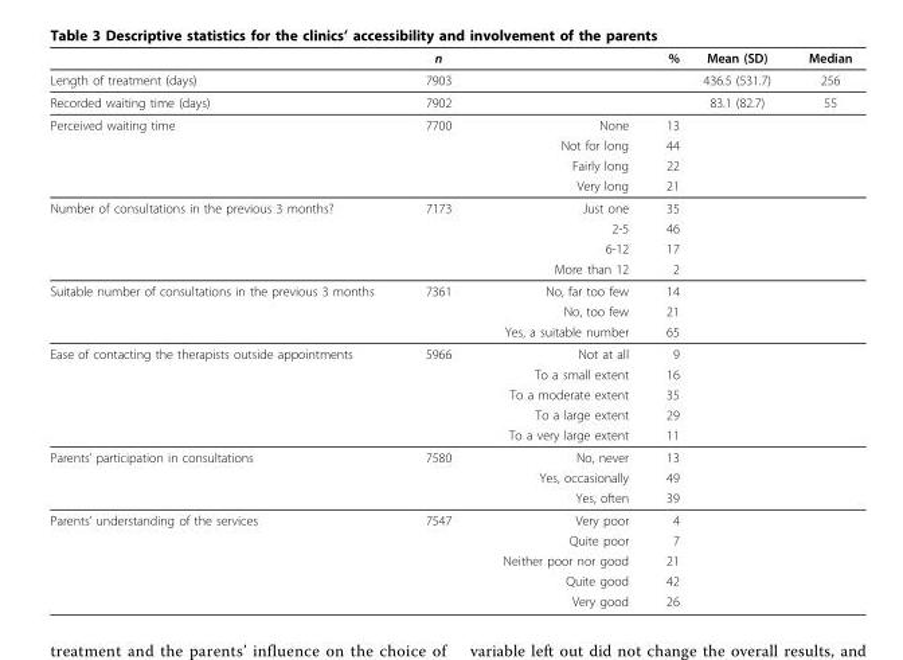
<table><thead><tr><td></td><td>n</td><td></td><td>%</td><td>Mean (SD)</td><td>Median</td></tr></thead><tbody><tr><td>Length of treatment (days)</td><td>7903</td><td></td><td></td><td>436.5 (531.7)</td><td>256</td></tr><tr><td>Recorded waiting time (days)</td><td>7902</td><td></td><td></td><td>83.1 (82.7)</td><td>55</td></tr><tr><td rowspan="4">Perceived waiting time</td><td>7700</td><td>None</td><td>13</td><td></td><td></td></tr><tr><td></td><td>Not for long</td><td>44</td><td></td><td></td></tr><tr><td></td><td>Fairly long</td><td>22</td><td></td><td></td></tr><tr><td></td><td>Very long</td><td>21</td><td></td><td></td></tr><tr><td rowspan="4">Number of consultations in the previous 3 months?</td><td>7173</td><td>Just one</td><td>35</td><td></td><td></td></tr><tr><td></td><td>2-5</td><td>46</td><td></td><td></td></tr><tr><td></td><td>6-12</td><td>17</td><td></td><td></td></tr><tr><td></td><td>More than 12</td><td>2</td><td></td><td></td></tr><tr><td rowspan="3">Suitable number of consultations in the previous 3 months</td><td>7361</td><td>No, far too few</td><td>14</td><td></td><td></td></tr><tr><td></td><td>No, too few</td><td>21</td><td></td><td></td></tr><tr><td></td><td>Yes, a suitable number</td><td>65</td><td></td><td></td></tr><tr><td rowspan="5">Ease of contacting the therapists outside appointments</td><td>5966</td><td>Not at all</td><td>9</td><td></td><td></td></tr><tr><td></td><td>To a small extent</td><td>16</td><td></td><td></td></tr><tr><td></td><td>To a moderate extent</td><td>35</td><td></td><td></td></tr><tr><td></td><td>To a large extent</td><td>29</td><td></td><td></td></tr><tr><td></td><td>To a very large extent</td><td>11</td><td></td><td></td></tr><tr><td rowspan="3">Parents’ participation in consultations</td><td>7580</td><td>No, never</td><td>13</td><td></td><td></td></tr><tr><td></td><td>Yes, occasionally</td><td>49</td><td></td><td></td></tr><tr><td></td><td>Yes, often</td><td>39</td><td></td><td></td></tr><tr><td rowspan="5">Parents’ understanding of the services</td><td>7547</td><td>Very poor</td><td>4</td><td></td><td></td></tr><tr><td></td><td>Quite poor</td><td>7</td><td></td><td></td></tr><tr><td></td><td>Neither poor nor good</td><td>21</td><td></td><td></td></tr><tr><td></td><td>Quite good</td><td>42</td><td></td><td></td></tr><tr><td></td><td>Very good</td><td>26</td><td></td><td></td></tr></tbody></table>